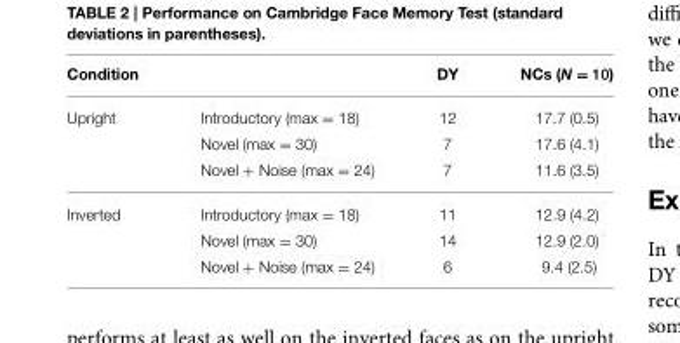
<table><thead><tr><td>Condition</td><td></td><td>DY</td><td>NCs (N = 10)</td></tr></thead><tbody><tr><td rowspan="3">Upright</td><td>Introductory (max = 18)</td><td>12</td><td>17.7 (0.5)</td></tr><tr><td>Novel (max = 30)</td><td>7</td><td>17.6 (4.1)</td></tr><tr><td>Novel + Noise (max = 24)</td><td>7</td><td>11.6 (3.5)</td></tr><tr><td rowspan="3">Inverted</td><td>Introductory (max = 18)</td><td>11</td><td>12.9 (4.2)</td></tr><tr><td>Novel (max = 30)</td><td>14</td><td>12.9 (2.0)</td></tr><tr><td>Novel + Noise (max = 24)</td><td>6</td><td>9.4 (2.5)</td></tr></tbody></table>